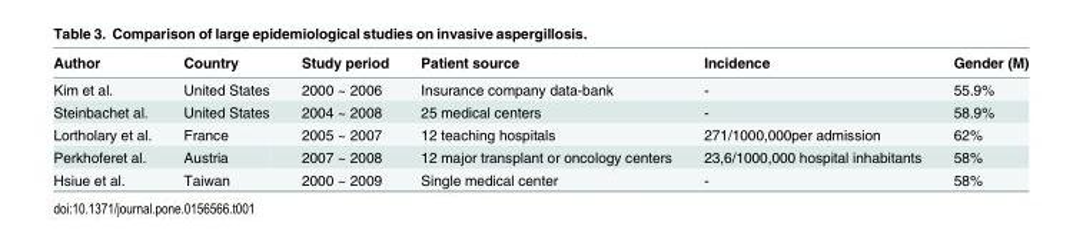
<table><thead><tr><td>Author</td><td>Country</td><td>Study period</td><td>Patient source</td><td>Incidence</td><td>Gender (M)</td></tr></thead><tbody><tr><td>Kim et al.</td><td>United States</td><td>2000 ~ 2006</td><td>Insurance company data-bank</td><td>-</td><td>55.9%</td></tr><tr><td>Steinbachet al.</td><td>United States</td><td>2004 ~ 2008</td><td>25 medical centers</td><td>-</td><td>58.9%</td></tr><tr><td>Lortholary et al.</td><td>France</td><td>2005 ~ 2007</td><td>12 teaching hospitals</td><td>271/1000,000per admission</td><td>62%</td></tr><tr><td>Perkhoferet al.</td><td>Austria</td><td>2007 ~ 2008</td><td>12 major transplant or oncology centers</td><td>23,6/1000,000 hospital inhabitants</td><td>58%</td></tr><tr><td>Hsiue et al.</td><td>Taiwan</td><td>2000 ~ 2009</td><td>Single medical center</td><td>-</td><td>58%</td></tr></tbody></table>